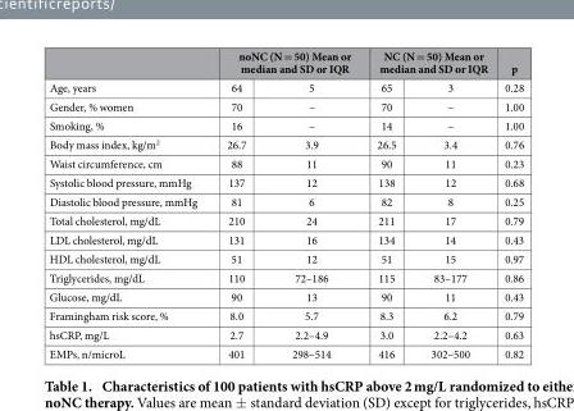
<table><thead><tr><td rowspan="2">Age, years</td><td colspan="2">noNC (N = 50) Mean or median and SD or IQR</td><td colspan="2">NC (N = 50) Mean or median and SD or IQR</td><td rowspan="2">p 0.28</td></tr><tr><td>64</td><td>5</td><td>65</td><td>3</td></tr></thead><tbody><tr><td>Gender, % women</td><td>70</td><td>–</td><td>70</td><td>–</td><td>1.00</td></tr><tr><td>Smoking, %</td><td>16</td><td>–</td><td>14</td><td>–</td><td>1.00</td></tr><tr><td>Body mass index, kg/m<sup>2</sup></td><td>26.7</td><td>3.9</td><td>26.5</td><td>3.4</td><td>0.76</td></tr><tr><td>Waist circumference, cm</td><td>88</td><td>11</td><td>90</td><td>11</td><td>0.23</td></tr><tr><td>Systolic blood pressure, mmHg</td><td>137</td><td>12</td><td>138</td><td>12</td><td>0.68</td></tr><tr><td>Diastolic blood pressure, mmHg</td><td>81</td><td>6</td><td>82</td><td>8</td><td>0.25</td></tr><tr><td>Total cholesterol, mg/dL</td><td>210</td><td>24</td><td>211</td><td>17</td><td>0.79</td></tr><tr><td>LDL cholesterol, mg/dL</td><td>131</td><td>16</td><td>134</td><td>14</td><td>0.43</td></tr><tr><td>HDL cholesterol, mg/dL</td><td>51</td><td>12</td><td>51</td><td>15</td><td>0.97</td></tr><tr><td>Triglycerides, mg/dL</td><td>110</td><td>72–186</td><td>115</td><td>83–177</td><td>0.86</td></tr><tr><td>Glucose, mg/dL</td><td>90</td><td>13</td><td>90</td><td>11</td><td>0.43</td></tr><tr><td>Framingham risk score, %</td><td>8.0</td><td>5.7</td><td>8.3</td><td>6.2</td><td>0.79</td></tr><tr><td>hsCRP, mg/L</td><td>2.7</td><td>2.2–4.9</td><td>3.0</td><td>2.2–4.2</td><td>0.63</td></tr><tr><td>EMPs, n/microL</td><td>401</td><td>298–514</td><td>416</td><td>302–500</td><td>0.82</td></tr></tbody></table>